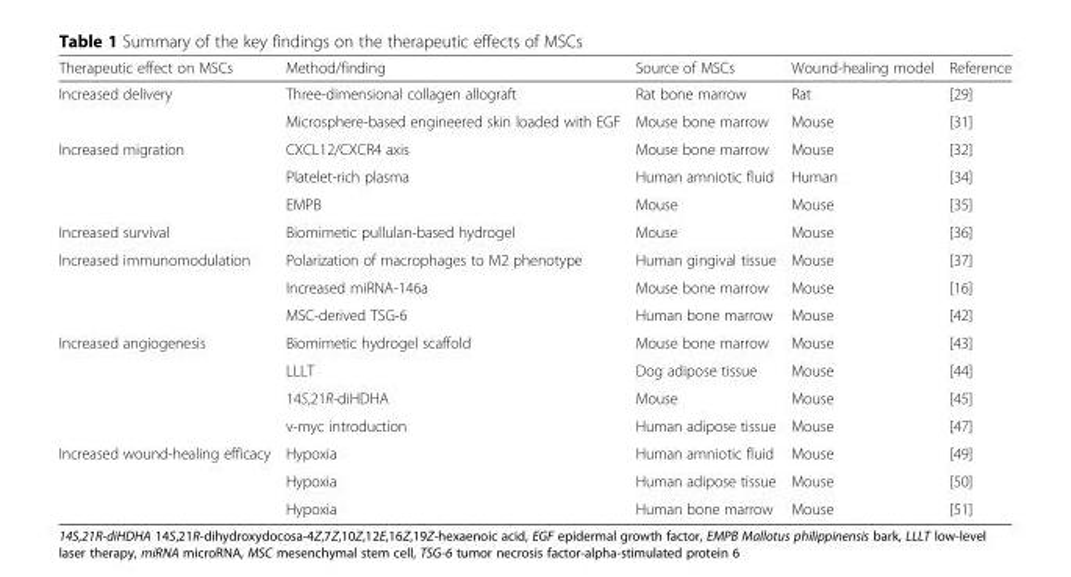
<table><thead><tr><td>Therapeutic effect on MSCs</td><td>Method/finding</td><td>Source of MSCs</td><td>Wound-healing model</td><td>Reference</td></tr></thead><tbody><tr><td rowspan="2">Increased delivery</td><td>Three-dimensional collagen allograft</td><td>Rat bone marrow</td><td>Rat</td><td>[29]</td></tr><tr><td>Microsphere-based engineered skin loaded with EGF</td><td>Mouse bone marrow</td><td>Mouse</td><td>[31]</td></tr><tr><td rowspan="3">Increased migration</td><td>CXCL12/CXCR4 axis</td><td>Mouse bone marrow</td><td>Mouse</td><td>[32]</td></tr><tr><td>Platelet-rich plasma</td><td>Human amniotic fluid</td><td>Human</td><td>[34]</td></tr><tr><td>EMPB</td><td>Mouse</td><td>Mouse</td><td>[35]</td></tr><tr><td>Increased survival</td><td>Biomimetic pullulan-based hydrogel</td><td>Mouse</td><td>Mouse</td><td>[36]</td></tr><tr><td rowspan="3">Increased immunomodulation</td><td>Polarization of macrophages to M2 phenotype</td><td>Human gingival tissue</td><td>Mouse</td><td>[37]</td></tr><tr><td>Increased miRNA-146a</td><td>Mouse bone marrow</td><td>Mouse</td><td>[16]</td></tr><tr><td>MSC-derived TSG-6</td><td>Human bone marrow</td><td>Mouse</td><td>[42]</td></tr><tr><td rowspan="4">Increased angiogenesis</td><td>Biomimetic hydrogel scaffold</td><td>Mouse bone marrow</td><td>Mouse</td><td>[43]</td></tr><tr><td>LLLT</td><td>Dog adipose tissue</td><td>Mouse</td><td>[44]</td></tr><tr><td>14S,21R-diHDHA</td><td>Mouse</td><td>Mouse</td><td>[45]</td></tr><tr><td>v-myc introduction</td><td>Human adipose tissue</td><td>Mouse</td><td>[47]</td></tr><tr><td rowspan="3">Increased wound-healing efficacy</td><td>Hypoxia</td><td>Human amniotic fluid</td><td>Mouse</td><td>[49]</td></tr><tr><td>Hypoxia</td><td>Human adipose tissue</td><td>Mouse</td><td>[50]</td></tr><tr><td>Hypoxia</td><td>Human bone marrow</td><td>Mouse</td><td>[51]</td></tr></tbody></table>